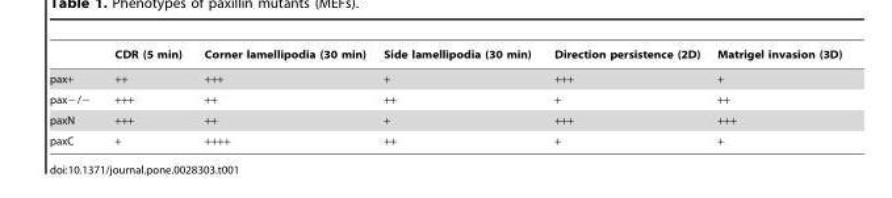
<table><thead><tr><td></td><td>CDR (5 min)</td><td>Corner lamellipodia (30 min)</td><td>Side lamellipodia (30 min)</td><td>Direction persistence (2D)</td><td>Matrigel invasion (3D)</td></tr></thead><tbody><tr><td>pax+</td><td>++</td><td>+++</td><td>+</td><td>+++</td><td>+</td></tr><tr><td>pax−/−</td><td>+++</td><td>++</td><td>++</td><td>+</td><td>++</td></tr><tr><td>paxN</td><td>+++</td><td>++</td><td>+</td><td>+++</td><td>+++</td></tr><tr><td>paxC</td><td>+</td><td>++++</td><td>++</td><td>+</td><td>+</td></tr></tbody></table>